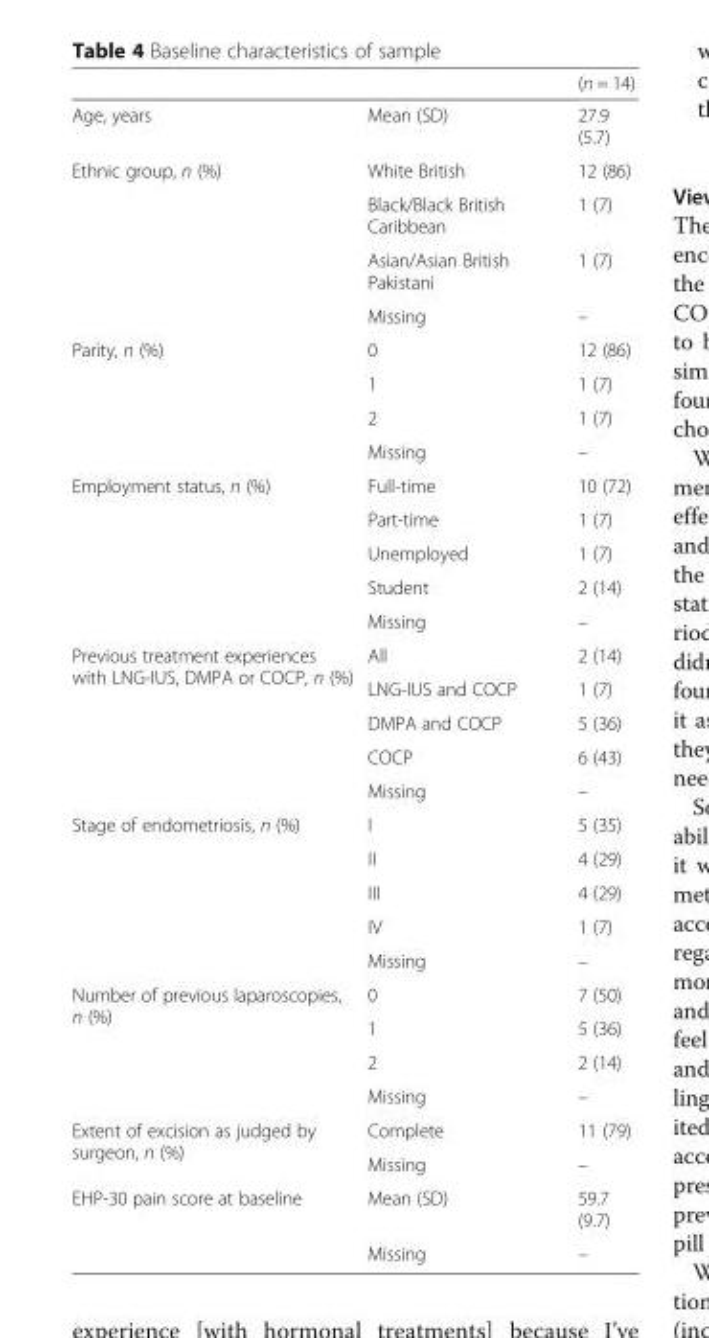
<table><thead><tr><td></td><td></td><td>(n = 14)</td></tr></thead><tbody><tr><td>Age, years</td><td>Mean (SD)</td><td>27.9 (5.7)</td></tr><tr><td rowspan="4">Ethnic group, n (%)</td><td>White British</td><td>12 (86)</td></tr><tr><td>Black/Black British Caribbean</td><td>1 (7)</td></tr><tr><td>Asian/Asian British Pakistani</td><td>1 (7)</td></tr><tr><td>Missing</td><td>–</td></tr><tr><td rowspan="4">Parity, n (%)</td><td>0</td><td>12 (86)</td></tr><tr><td>1</td><td>1 (7)</td></tr><tr><td>2</td><td>1 (7)</td></tr><tr><td>Missing</td><td>–</td></tr><tr><td rowspan="5">Employment status, n (%)</td><td>Full-time</td><td>10 (72)</td></tr><tr><td>Part-time</td><td>1 (7)</td></tr><tr><td>Unemployed</td><td>1 (7)</td></tr><tr><td>Student</td><td>2 (14)</td></tr><tr><td>Missing</td><td>–</td></tr><tr><td rowspan="5">Previous treatment experiences with LNG-IUS, DMPA or COCP, n (%)</td><td>All</td><td>2 (14)</td></tr><tr><td>LNG-IUS and COCP</td><td>1 (7)</td></tr><tr><td>DMPA and COCP</td><td>5 (36)</td></tr><tr><td>COCP</td><td>6 (43)</td></tr><tr><td>Missing</td><td>–</td></tr><tr><td rowspan="5">Stage of endometriosis, n (%)</td><td>I</td><td>5 (35)</td></tr><tr><td>II</td><td>4 (29)</td></tr><tr><td>III</td><td>4 (29)</td></tr><tr><td>IV</td><td>1 (7)</td></tr><tr><td>Missing</td><td>–</td></tr><tr><td rowspan="4">Number of previous laparoscopies, n (%)</td><td>0</td><td>7 (50)</td></tr><tr><td>1</td><td>5 (36)</td></tr><tr><td>2</td><td>2 (14)</td></tr><tr><td>Missing</td><td>–</td></tr><tr><td rowspan="2">Extent of excision as judged by surgeon, n (%)</td><td>Complete</td><td>11 (79)</td></tr><tr><td>Missing</td><td>–</td></tr><tr><td rowspan="2">EHP-30 pain score at baseline</td><td>Mean (SD)</td><td>59.7 (9.7)</td></tr><tr><td>Missing</td><td>–</td></tr></tbody></table>